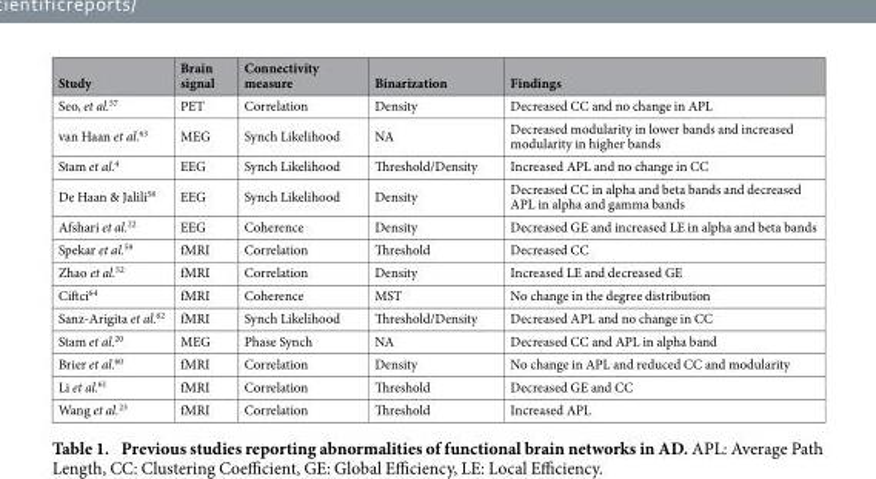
<table><thead><tr><td>Study</td><td>Brain signal</td><td>Connectivity measure</td><td>Binarization</td><td>Findings</td></tr></thead><tbody><tr><td>Seo, et al.<sup>57</sup></td><td>PET</td><td>Correlation</td><td>Density</td><td>Decreased CC and no change in APL</td></tr><tr><td>van Haan et al.<sup>63</sup></td><td>MEG</td><td>Synch Likelihood</td><td>NA</td><td>Decreased modularity in lower bands and increased modularity in higher bands</td></tr><tr><td>Stam et al.<sup>4</sup></td><td>EEG</td><td>Synch Likelihood</td><td>Threshold/Density</td><td>Increased APL and no change in CC</td></tr><tr><td>De Haan &amp; Jalili<sup>58</sup></td><td>EEG</td><td>Synch Likelihood</td><td>Density</td><td>Decreased CC in alpha and beta bands and decreased APL in alpha and gamma bands</td></tr><tr><td>Afshari et al.<sup>22</sup></td><td>EEG</td><td>Coherence</td><td>Density</td><td>Decreased GE and increased LE in alpha and beta bands</td></tr><tr><td>Spekar et al.<sup>59</sup></td><td>fMRI</td><td>Correlation</td><td>Threshold</td><td>Decreased CC</td></tr><tr><td>Zhao et al.<sup>52</sup></td><td>fMRI</td><td>Correlation</td><td>Density</td><td>Increased LE and decreased GE</td></tr><tr><td>Ciftci<sup>64</sup></td><td>fMRI</td><td>Coherence</td><td>MST</td><td>No change in the degree distribution</td></tr><tr><td>Sanz-Arigita et al.<sup>62</sup></td><td>fMRI</td><td>Synch Likelihood</td><td>Threshold/Density</td><td>Decreased APL and no change in CC</td></tr><tr><td>Stam et al.<sup>20</sup></td><td>MEG</td><td>Phase Synch</td><td>NA</td><td>Decreased CC and APL in alpha band</td></tr><tr><td>Brier et al.<sup>60</sup></td><td>fMRI</td><td>Correlation</td><td>Density</td><td>No change in APL and reduced CC and modularity</td></tr><tr><td>Li et al.<sup>61</sup></td><td>fMRI</td><td>Correlation</td><td>Threshold</td><td>Decreased GE and CC</td></tr><tr><td>Wang et al.<sup>23</sup></td><td>fMRI</td><td>Correlation</td><td>Threshold</td><td>Increased APL</td></tr></tbody></table>